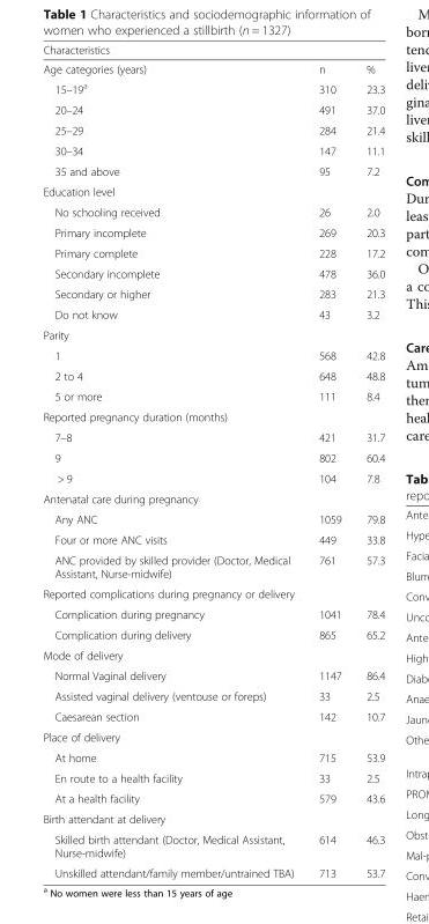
<table><thead><tr><td>Characteristics</td><td></td><td></td></tr></thead><tbody><tr><td>Age categories (years)</td><td>n</td><td>%</td></tr><tr><td>15–19<sup>a</sup></td><td>310</td><td>23.3</td></tr><tr><td>20–24</td><td>491</td><td>37.0</td></tr><tr><td>25–29</td><td>284</td><td>21.4</td></tr><tr><td>30–34</td><td>147</td><td>11.1</td></tr><tr><td>35 and above</td><td>95</td><td>7.2</td></tr><tr><td colspan="3">Education level</td></tr><tr><td>No schooling received</td><td>26</td><td>2.0</td></tr><tr><td>Primary incomplete</td><td>269</td><td>20.3</td></tr><tr><td>Primary complete</td><td>228</td><td>17.2</td></tr><tr><td>Secondary incomplete</td><td>478</td><td>36.0</td></tr><tr><td>Secondary or higher</td><td>283</td><td>21.3</td></tr><tr><td>Do not know</td><td>43</td><td>3.2</td></tr><tr><td colspan="3">Parity</td></tr><tr><td>1</td><td>568</td><td>42.8</td></tr><tr><td>2 to 4</td><td>648</td><td>48.8</td></tr><tr><td>5 or more</td><td>111</td><td>8.4</td></tr><tr><td colspan="3">Reported pregnancy duration (months)</td></tr><tr><td>7–8</td><td>421</td><td>31.7</td></tr><tr><td>9</td><td>802</td><td>60.4</td></tr><tr><td>&gt; 9</td><td>104</td><td>7.8</td></tr><tr><td colspan="3">Antenatal care during pregnancy</td></tr><tr><td>Any ANC</td><td>1059</td><td>79.8</td></tr><tr><td>Four or more ANC visits</td><td>449</td><td>33.8</td></tr><tr><td>ANC provided by skilled provider (Doctor, Medical Assistant, Nurse-midwife)</td><td>761</td><td>57.3</td></tr><tr><td colspan="3">Reported complications during pregnancy or delivery</td></tr><tr><td>Complication during pregnancy</td><td>1041</td><td>78.4</td></tr><tr><td>Complication during delivery</td><td>865</td><td>65.2</td></tr><tr><td colspan="3">Mode of delivery</td></tr><tr><td>Normal Vaginal delivery</td><td>1147</td><td>86.4</td></tr><tr><td>Assisted vaginal delivery (ventouse or foreps)</td><td>33</td><td>2.5</td></tr><tr><td>Caesarean section</td><td>142</td><td>10.7</td></tr><tr><td colspan="3">Place of delivery</td></tr><tr><td>At home</td><td>715</td><td>53.9</td></tr><tr><td>En route to a health facility</td><td>33</td><td>2.5</td></tr><tr><td>At a health facility</td><td>579</td><td>43.6</td></tr><tr><td colspan="3">Birth attendant at delivery</td></tr><tr><td>Skilled birth attendant (Doctor, Medical Assistant, Nurse-midwife)</td><td>614</td><td>46.3</td></tr><tr><td>Unskilled attendant/family member/untrained TBA)</td><td>713</td><td>53.7</td></tr></tbody></table>